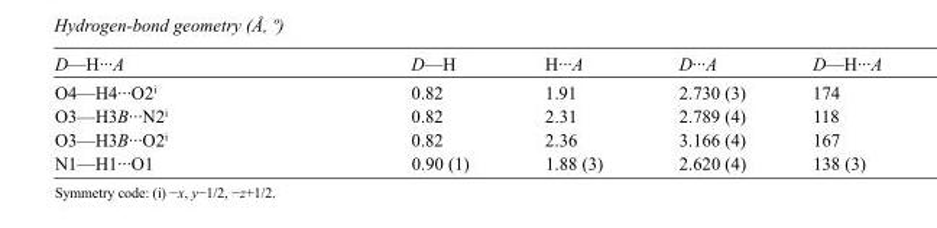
<table><tbody><tr><td>D—H···A</td><td>D—H</td><td>H···A</td><td>D···A</td><td>D—H···A</td></tr><tr><td>O4—H4···O2<sup>i</sup></td><td>0.82</td><td>1.91</td><td>2.730 (3)</td><td>174</td></tr><tr><td>O3—H3B···N2<sup>i</sup></td><td>0.82</td><td>2.31</td><td>2.789 (4)</td><td>118</td></tr><tr><td>O3—H3B···O2<sup>i</sup></td><td>0.82</td><td>2.36</td><td>3.166 (4)</td><td>167</td></tr><tr><td>N1—H1···O1</td><td>0.90 (1)</td><td>1.88 (3)</td><td>2.620 (4)</td><td>138 (3)</td></tr></tbody></table>